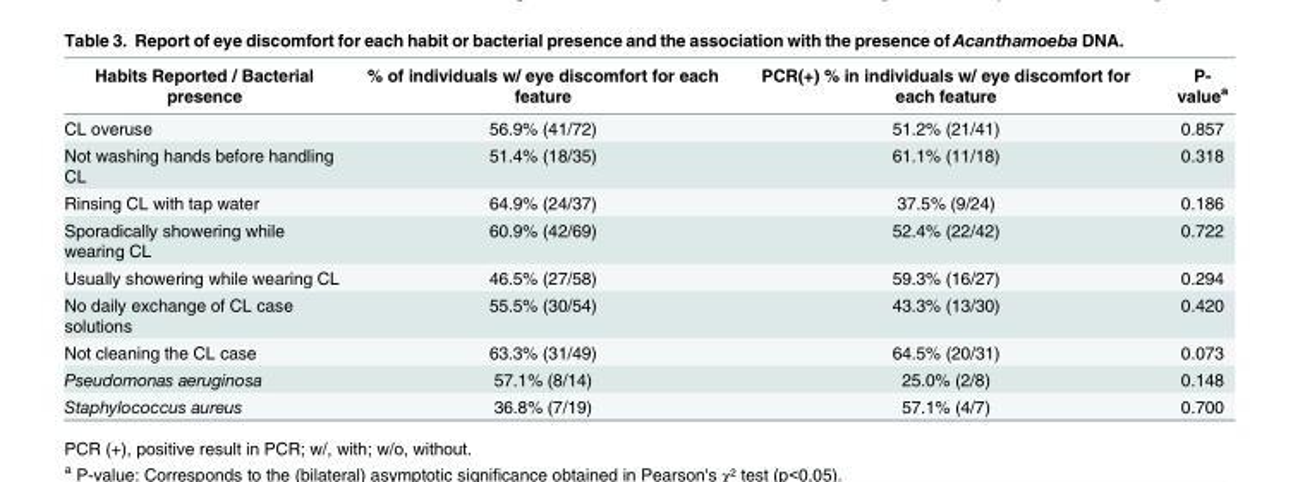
<table><thead><tr><td>Habits Reported / Bacterial presence</td><td>% of individuals w/ eye discomfort for each feature</td><td>PCR(+) % in individuals w/ eye discomfort for each feature</td><td>P- value<sup>a</sup></td></tr></thead><tbody><tr><td>CL overuse</td><td>56.9% (41/72)</td><td>51.2% (21/41)</td><td>0.857</td></tr><tr><td>Not washing hands before handling CL</td><td>51.4% (18/35)</td><td>61.1% (11/18)</td><td>0.318</td></tr><tr><td>Rinsing CL with tap water</td><td>64.9% (24/37)</td><td>37.5% (9/24)</td><td>0.186</td></tr><tr><td>Sporadically showering while wearing CL</td><td>60.9% (42/69)</td><td>52.4% (22/42)</td><td>0.722</td></tr><tr><td>Usually showering while wearing CL</td><td>46.5% (27/58)</td><td>59.3% (16/27)</td><td>0.294</td></tr><tr><td>No daily exchange of CL case solutions</td><td>55.5% (30/54)</td><td>43.3% (13/30)</td><td>0.420</td></tr><tr><td>Not cleaning the CL case</td><td>63.3% (31/49)</td><td>64.5% (20/31)</td><td>0.073</td></tr><tr><td>Pseudomonas aeruginosa</td><td>57.1% (8/14)</td><td>25.0% (2/8)</td><td>0.148</td></tr><tr><td>Staphylococcus aureus</td><td>36.8% (7/19)</td><td>57.1% (4/7)</td><td>0.700</td></tr></tbody></table>